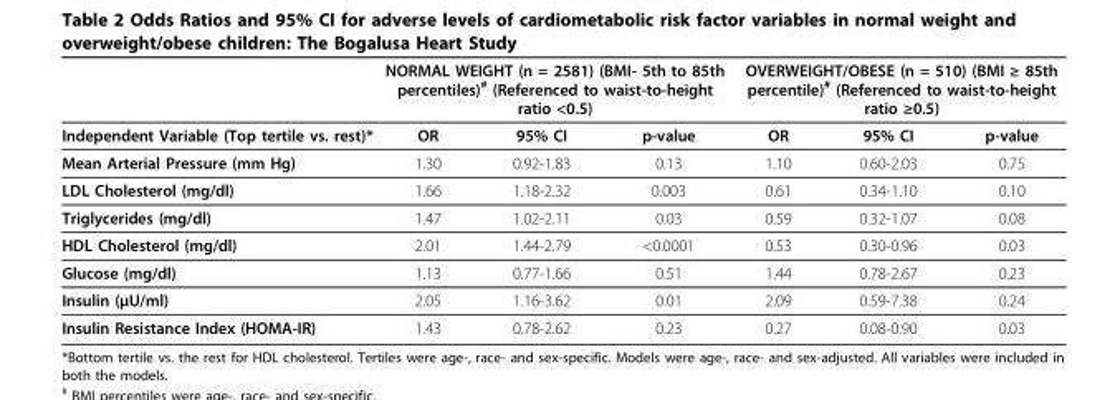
<table><thead><tr><td rowspan="2">Independent Variable (Top tertile vs. rest)*</td><td colspan="3">NORMAL WEIGHT (n = 2581) (BMI- 5th to 85th percentiles)<sup>#</sup> (Referenced to waist-to-height ratio &lt;0.5)</td><td colspan="3">OVERWEIGHT/OBESE (n = 510) (BMI ≥ 85th percentile)<sup>#</sup> (Referenced to waist-to-height ratio ≥0.5)</td></tr><tr><td>OR</td><td>95% CI</td><td>p-value</td><td>OR</td><td>95% CI</td><td>p-value</td></tr></thead><tbody><tr><td>Mean Arterial Pressure (mm Hg)</td><td>1.30</td><td>0.92-1.83</td><td>0.13</td><td>1.10</td><td>0.60-2.03</td><td>0.75</td></tr><tr><td>LDL Cholesterol (mg/dl)</td><td>1.66</td><td>1.18-2.32</td><td>0.003</td><td>0.61</td><td>0.34-1.10</td><td>0.10</td></tr><tr><td>Triglycerides (mg/dl)</td><td>1.47</td><td>1.02-2.11</td><td>0.03</td><td>0.59</td><td>0.32-1.07</td><td>0.08</td></tr><tr><td>HDL Cholesterol (mg/dl)</td><td>2.01</td><td>1.44-2.79</td><td>&lt;0.0001</td><td>0.53</td><td>0.30-0.96</td><td>0.03</td></tr><tr><td>Glucose (mg/dl)</td><td>1.13</td><td>0.77-1.66</td><td>0.51</td><td>1.44</td><td>0.78-2.67</td><td>0.23</td></tr><tr><td>Insulin (μU/ml)</td><td>2.05</td><td>1.16-3.62</td><td>0.01</td><td>2.09</td><td>0.59-7.38</td><td>0.24</td></tr><tr><td>Insulin Resistance Index (HOMA-IR)</td><td>1.43</td><td>0.78-2.62</td><td>0.23</td><td>0.27</td><td>0.08-0.90</td><td>0.03</td></tr></tbody></table>